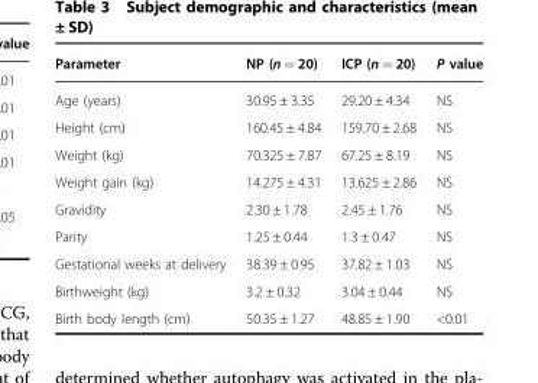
<table><thead><tr><td>Parameter</td><td>NP (n = 20)</td><td>ICP (n = 20)</td><td>P value</td></tr></thead><tbody><tr><td>Age (years)</td><td>30.95 ± 3.35</td><td>29.20 ± 4.34</td><td>NS</td></tr><tr><td>Height (cm)</td><td>160.45 ± 4.84</td><td>159.70 ± 2.68</td><td>NS</td></tr><tr><td>Weight (kg)</td><td>70.325 ± 7.87</td><td>67.25 ± 8.19</td><td>NS</td></tr><tr><td>Weight gain (kg)</td><td>14.275 ± 4.31</td><td>13.625 ± 2.86</td><td>NS</td></tr><tr><td>Gravidity</td><td>2.30 ± 1.78</td><td>2.45 ± 1.76</td><td>NS</td></tr><tr><td>Parity</td><td>1.25 ± 0.44</td><td>1.3 ± 0.47</td><td>NS</td></tr><tr><td>Gestational weeks at delivery</td><td>38.39 ± 0.95</td><td>37.82 ± 1.03</td><td>NS</td></tr><tr><td>Birthweight (kg)</td><td>3.2 ± 0.32</td><td>3.04 ± 0.44</td><td>NS</td></tr><tr><td>Birth body length (cm)</td><td>50.35 ± 1.27</td><td>48.85 ± 1.90</td><td>&lt;0.01</td></tr></tbody></table>